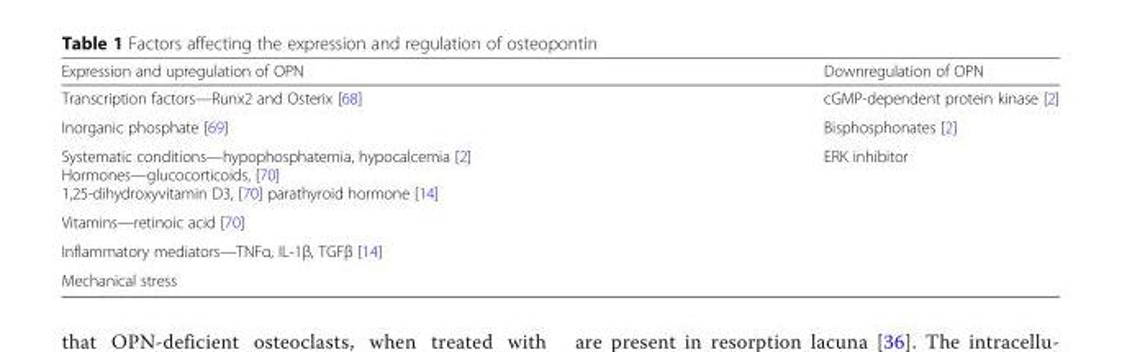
<table><thead><tr><td>Expression and upregulation of OPN</td><td>Downregulation of OPN</td></tr></thead><tbody><tr><td>Transcription factors—Runx2 and Osterix [68]</td><td>cGMP-dependent protein kinase [2]</td></tr><tr><td>Inorganic phosphate [69]</td><td>Bisphosphonates [2]</td></tr><tr><td>Systematic conditions—hypophosphatemia, hypocalcemia [2] Hormones—glucocorticoids, [70] 1,25-dihydroxyvitamin D3, [70] parathyroid hormone [14]</td><td>ERK inhibitor</td></tr><tr><td colspan="2">Vitamins—retinoic acid [70]</td></tr><tr><td colspan="2">Inflammatory mediators—TNFα, IL-1β, TGFβ [14]</td></tr><tr><td>Mechanical stress</td><td></td></tr></tbody></table>